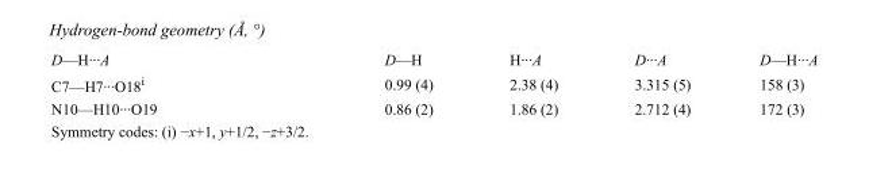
<table><tbody><tr><td>D—H···A</td><td>D—H</td><td>H···A</td><td>D···A</td><td>D—H···A</td></tr><tr><td>C7—H7···O18<sup>i</sup></td><td>0.99 (4)</td><td>2.38 (4)</td><td>3.315 (5)</td><td>158 (3)</td></tr><tr><td>N10—H10···O19</td><td>0.86 (2)</td><td>1.86 (2)</td><td>2.712 (4)</td><td>172 (3)</td></tr></tbody></table>